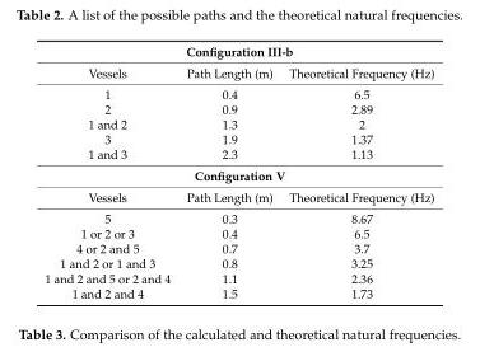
<table><tbody><tr><td colspan="3">Configuration III-b</td></tr><tr><td>Vessels</td><td>Path Length (m)</td><td>Theoretical Frequency (Hz)</td></tr><tr><td>1</td><td>0.4</td><td>6.5</td></tr><tr><td>2</td><td>0.9</td><td>2.89</td></tr><tr><td>1 and 2</td><td>1.3</td><td>2</td></tr><tr><td>3</td><td>1.9</td><td>1.37</td></tr><tr><td>1 and 3</td><td>2.3</td><td>1.13</td></tr><tr><td colspan="3">Configuration V</td></tr><tr><td>Vessels</td><td>Path Length (m)</td><td>Theoretical Frequency (Hz)</td></tr><tr><td>5</td><td>0.3</td><td>8.67</td></tr><tr><td>1 or 2 or 3</td><td>0.4</td><td>6.5</td></tr><tr><td>4 or 2 and 5</td><td>0.7</td><td>3.7</td></tr><tr><td>1 and 2 or 1 and 3</td><td>0.8</td><td>3.25</td></tr><tr><td>1 and 2 and 5 or 2 and 4</td><td>1.1</td><td>2.36</td></tr><tr><td>1 and 2 and 4</td><td>1.5</td><td>1.73</td></tr></tbody></table>